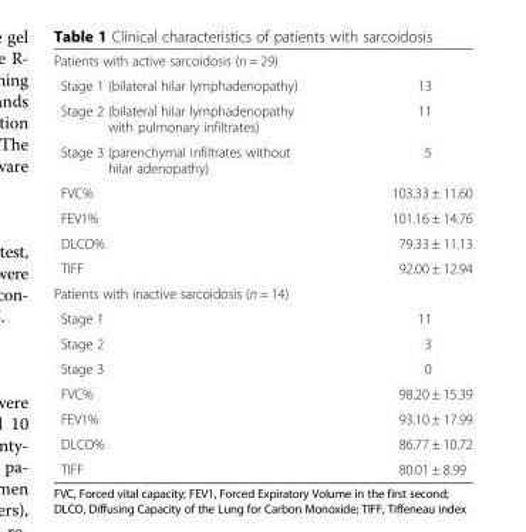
<table><tbody><tr><td colspan="2">Patients with active sarcoidosis (n = 29)</td></tr><tr><td>Stage 1 (bilateral hilar lymphadenopathy)</td><td>13</td></tr><tr><td>Stage 2 (bilateral hilar lymphadenopathy with pulmonary infiltrates)</td><td>11</td></tr><tr><td>Stage 3 (parenchymal infiltrates without hilar adenopathy)</td><td>5</td></tr><tr><td>FVC%</td><td>103.33 ± 11.60</td></tr><tr><td>FEV1%</td><td>101.16 ± 14.76</td></tr><tr><td>DLCO%</td><td>79.33 ± 11.13</td></tr><tr><td>TIFF</td><td>92.00 ± 12.94</td></tr><tr><td colspan="2">Patients with inactive sarcoidosis (n = 14)</td></tr><tr><td>Stage 1</td><td>11</td></tr><tr><td>Stage 2</td><td>3</td></tr><tr><td>Stage 3</td><td>0</td></tr><tr><td>FVC%</td><td>98.20 ± 15.39</td></tr><tr><td>FEV1%</td><td>93.10 ± 17.99</td></tr><tr><td>DLCO%</td><td>86.77 ± 10.72</td></tr><tr><td>TIFF</td><td>80.01 ± 8.99</td></tr></tbody></table>